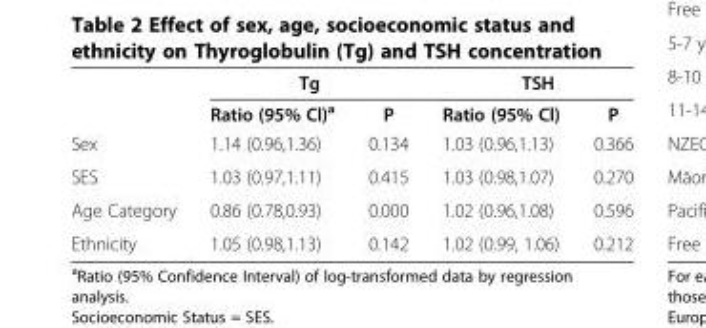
<table><thead><tr><td rowspan="2"></td><td colspan="2">Tg</td><td colspan="2">TSH</td></tr><tr><td>Ratio (95% Cl)<sup>a</sup></td><td>P</td><td>Ratio (95% Cl)</td><td>P</td></tr></thead><tbody><tr><td>Sex</td><td>1.14 (0.96,1.36)</td><td>0.134</td><td>1.03 (0.96,1.13)</td><td>0.366</td></tr><tr><td>SES</td><td>1.03 (0.97,1.11)</td><td>0.415</td><td>1.03 (0.98,1.07)</td><td>0.270</td></tr><tr><td>Age Category</td><td>0.86 (0.78,0.93)</td><td>0.000</td><td>1.02 (0.96,1.08)</td><td>0.596</td></tr><tr><td>Ethnicity</td><td>1.05 (0.98,1.13)</td><td>0.142</td><td>1.02 (0.99, 1.06)</td><td>0.212</td></tr></tbody></table>